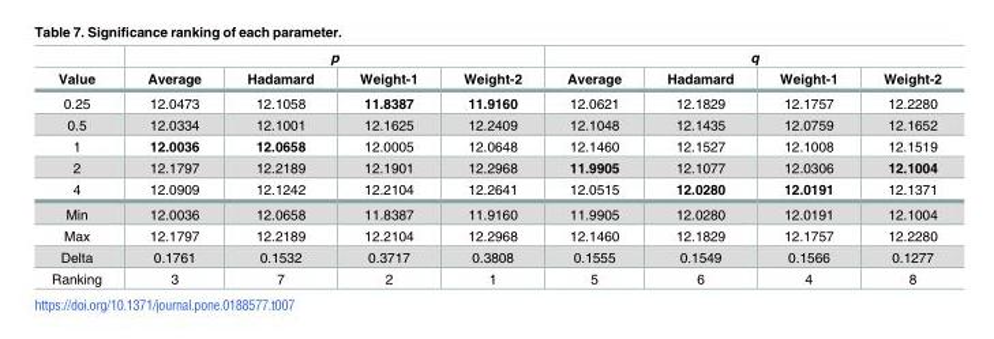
<table><thead><tr><td rowspan="2">Value</td><td colspan="4">p</td><td colspan="4">q</td></tr><tr><td>Average</td><td>Hadamard</td><td>Weight-1</td><td>Weight-2</td><td>Average</td><td>Hadamard</td><td>Weight-1</td><td>Weight-2</td></tr></thead><tbody><tr><td>0.25</td><td>12.0473</td><td>12.1058</td><td>11.8387</td><td>11.9160</td><td>12.0621</td><td>12.1829</td><td>12.1757</td><td>12.2280</td></tr><tr><td>0.5</td><td>12.0334</td><td>12.1001</td><td>12.1625</td><td>12.2409</td><td>12.1048</td><td>12.1435</td><td>12.0759</td><td>12.1652</td></tr><tr><td>1</td><td>12.0036</td><td>12.0658</td><td>12.0005</td><td>12.0648</td><td>12.1460</td><td>12.1527</td><td>12.1008</td><td>12.1519</td></tr><tr><td>2</td><td>12.1797</td><td>12.2189</td><td>12.1901</td><td>12.2968</td><td>11.9905</td><td>12.1077</td><td>12.0306</td><td>12.1004</td></tr><tr><td>4</td><td>12.0909</td><td>12.1242</td><td>12.2104</td><td>12.2641</td><td>12.0515</td><td>12.0280</td><td>12.0191</td><td>12.1371</td></tr><tr><td>Min</td><td>12.0036</td><td>12.0658</td><td>11.8387</td><td>11.9160</td><td>11.9905</td><td>12.0280</td><td>12.0191</td><td>12.1004</td></tr><tr><td>Max</td><td>12.1797</td><td>12.2189</td><td>12.2104</td><td>12.2968</td><td>12.1460</td><td>12.1829</td><td>12.1757</td><td>12.2280</td></tr><tr><td>Delta</td><td>0.1761</td><td>0.1532</td><td>0.3717</td><td>0.3808</td><td>0.1555</td><td>0.1549</td><td>0.1566</td><td>0.1277</td></tr><tr><td>Ranking</td><td>3</td><td>7</td><td>2</td><td>1</td><td>5</td><td>6</td><td>4</td><td>8</td></tr></tbody></table>